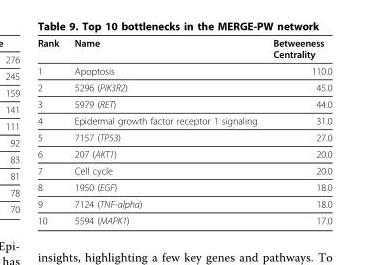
<table><thead><tr><td>Rank</td><td>Name</td><td>Betweeness Centrality</td></tr></thead><tbody><tr><td>1</td><td>Apoptosis</td><td>110.0</td></tr><tr><td>2</td><td>5296 (PIK3R2)</td><td>45.0</td></tr><tr><td>3</td><td>5979 (RET)</td><td>44.0</td></tr><tr><td>4</td><td>Epidermal growth factor receptor 1 signaling</td><td>31.0</td></tr><tr><td>5</td><td>7157 (TP53)</td><td>27.0</td></tr><tr><td>6</td><td>207 (AKT1)</td><td>20.0</td></tr><tr><td>7</td><td>Cell cycle</td><td>20.0</td></tr><tr><td>8</td><td>1950 (EGF)</td><td>18.0</td></tr><tr><td>9</td><td>7124 (TNF-alpha)</td><td>18.0</td></tr><tr><td>10</td><td>5594 (MAPK1)</td><td>17.0</td></tr></tbody></table>